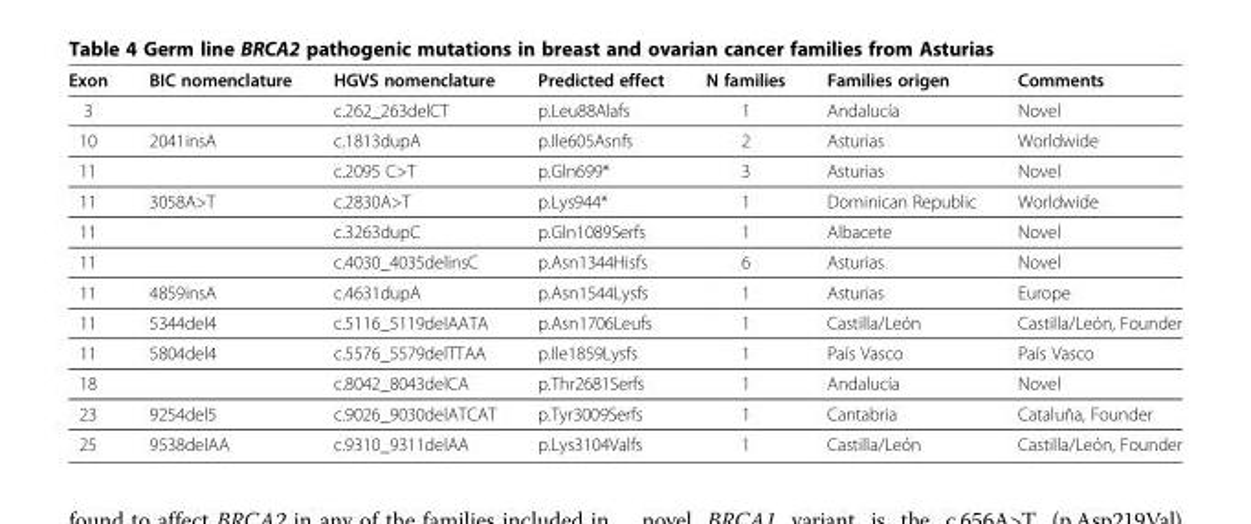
<table><thead><tr><td>Exon</td><td>BIC nomenclature</td><td>HGVS nomenclature</td><td>Predicted effect</td><td>N families</td><td>Families origen</td><td>Comments</td></tr></thead><tbody><tr><td>3</td><td></td><td>c.262_263delCT</td><td>p.Leu88Alafs</td><td>1</td><td>Andalucía</td><td>Novel</td></tr><tr><td>10</td><td>2041insA</td><td>c.1813dupA</td><td>p.Ile605Asnfs</td><td>2</td><td>Asturias</td><td>Worldwide</td></tr><tr><td>11</td><td></td><td>c.2095 C&gt;T</td><td>p.Gln699*</td><td>3</td><td>Asturias</td><td>Novel</td></tr><tr><td>11</td><td>3058A&gt;T</td><td>c.2830A&gt;T</td><td>p.Lys944*</td><td>1</td><td>Dominican Republic</td><td>Worldwide</td></tr><tr><td>11</td><td></td><td>c.3263dupC</td><td>p.Gln1089Serfs</td><td>1</td><td>Albacete</td><td>Novel</td></tr><tr><td>11</td><td></td><td>c.4030_4035delinsC</td><td>p.Asn1344Hisfs</td><td>6</td><td>Asturias</td><td>Novel</td></tr><tr><td>11</td><td>4859insA</td><td>c.4631dupA</td><td>p.Asn1544Lysfs</td><td>1</td><td>Asturias</td><td>Europe</td></tr><tr><td>11</td><td>5344del4</td><td>c.5116_5119delAATA</td><td>p.Asn1706Leufs</td><td>1</td><td>Castilla/León</td><td>Castilla/León, Founder</td></tr><tr><td>11</td><td>5804del4</td><td>c.5576_5579delTTAA</td><td>p.Ile1859Lysfs</td><td>1</td><td>País Vasco</td><td>País Vasco</td></tr><tr><td>18</td><td></td><td>c.8042_8043delCA</td><td>p.Thr2681Serfs</td><td>1</td><td>Andalucía</td><td>Novel</td></tr><tr><td>23</td><td>9254del5</td><td>c.9026_9030delATCAT</td><td>p.Tyr3009Serfs</td><td>1</td><td>Cantabria</td><td>Cataluña, Founder</td></tr><tr><td>25</td><td>9538delAA</td><td>c.9310_9311delAA</td><td>p.Lys3104Valfs</td><td>1</td><td>Castilla/León</td><td>Castilla/León, Founder</td></tr></tbody></table>